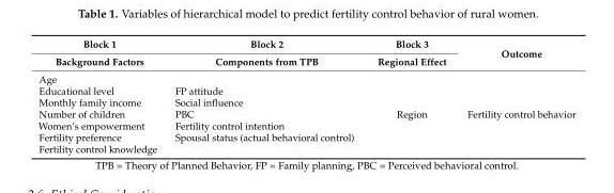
<table><thead><tr><td rowspan="2">Block 1 Background Factors</td><td rowspan="2">Block 2 Components from TPB</td><td rowspan="2">Block 3 Regional Effect</td><td rowspan="2">Outcome</td></tr><tr></tr></thead><tbody><tr><td>Age Educational level Monthly family income Number of children Women’s empowerment Fertility preference Fertility control knowledge</td><td>FP attitude Social influence PBC Fertility control intention Spousal status (actual behavioral control)</td><td>Region</td><td>Fertility control behavior</td></tr></tbody></table>